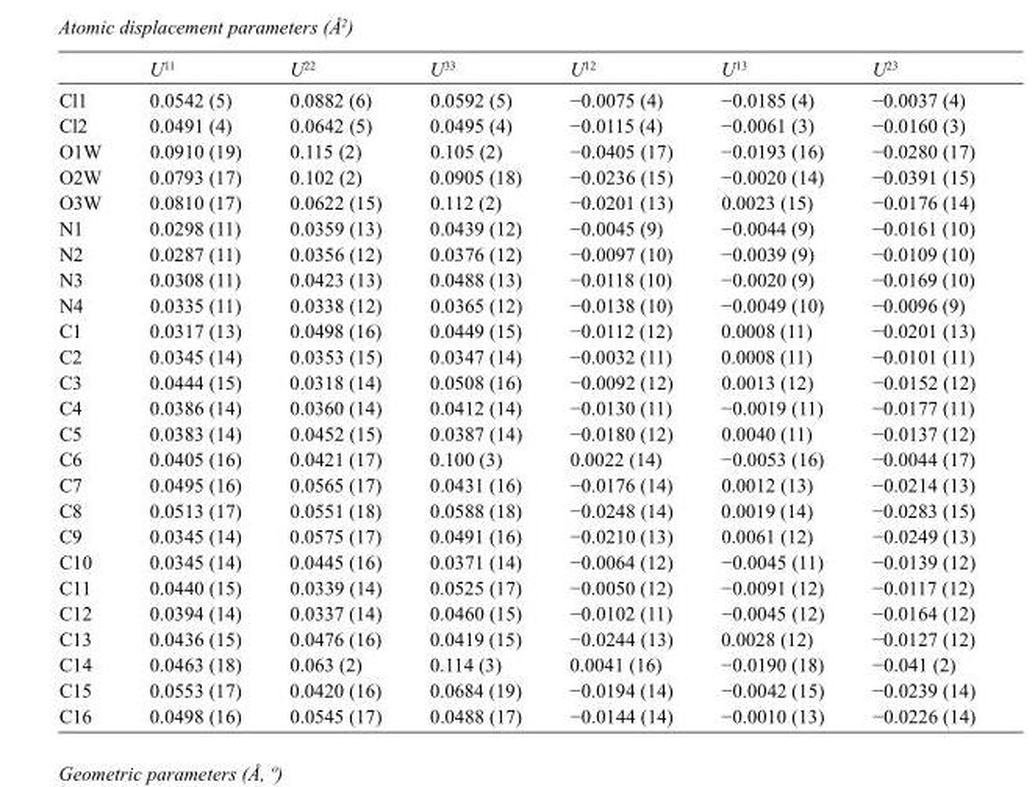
<table><thead><tr><td></td><td>U<sup>11</sup></td><td>U<sup>22</sup></td><td>U<sup>33</sup></td><td>U<sup>12</sup></td><td>U<sup>13</sup></td><td>U<sup>23</sup></td></tr></thead><tbody><tr><td>Cl1</td><td>0.0542 (5)</td><td>0.0882 (6)</td><td>0.0592 (5)</td><td>−0.0075 (4)</td><td>−0.0185 (4)</td><td>−0.0037 (4)</td></tr><tr><td>Cl2</td><td>0.0491 (4)</td><td>0.0642 (5)</td><td>0.0495 (4)</td><td>−0.0115 (4)</td><td>−0.0061 (3)</td><td>−0.0160 (3)</td></tr><tr><td>O1W</td><td>0.0910 (19)</td><td>0.115 (2)</td><td>0.105 (2)</td><td>−0.0405 (17)</td><td>−0.0193 (16)</td><td>−0.0280 (17)</td></tr><tr><td>O2W</td><td>0.0793 (17)</td><td>0.102 (2)</td><td>0.0905 (18)</td><td>−0.0236 (15)</td><td>−0.0020 (14)</td><td>−0.0391 (15)</td></tr><tr><td>O3W</td><td>0.0810 (17)</td><td>0.0622 (15)</td><td>0.112 (2)</td><td>−0.0201 (13)</td><td>0.0023 (15)</td><td>−0.0176 (14)</td></tr><tr><td>N1</td><td>0.0298 (11)</td><td>0.0359 (13)</td><td>0.0439 (12)</td><td>−0.0045 (9)</td><td>−0.0044 (9)</td><td>−0.0161 (10)</td></tr><tr><td>N2</td><td>0.0287 (11)</td><td>0.0356 (12)</td><td>0.0376 (12)</td><td>−0.0097 (10)</td><td>−0.0039 (9)</td><td>−0.0109 (10)</td></tr><tr><td>N3</td><td>0.0308 (11)</td><td>0.0423 (13)</td><td>0.0488 (13)</td><td>−0.0118 (10)</td><td>−0.0020 (9)</td><td>−0.0169 (10)</td></tr><tr><td>N4</td><td>0.0335 (11)</td><td>0.0338 (12)</td><td>0.0365 (12)</td><td>−0.0138 (10)</td><td>−0.0049 (10)</td><td>−0.0096 (9)</td></tr><tr><td>C1</td><td>0.0317 (13)</td><td>0.0498 (16)</td><td>0.0449 (15)</td><td>−0.0112 (12)</td><td>0.0008 (11)</td><td>−0.0201 (13)</td></tr><tr><td>C2</td><td>0.0345 (14)</td><td>0.0353 (15)</td><td>0.0347 (14)</td><td>−0.0032 (11)</td><td>0.0008 (11)</td><td>−0.0101 (11)</td></tr><tr><td>C3</td><td>0.0444 (15)</td><td>0.0318 (14)</td><td>0.0508 (16)</td><td>−0.0092 (12)</td><td>0.0013 (12)</td><td>−0.0152 (12)</td></tr><tr><td>C4</td><td>0.0386 (14)</td><td>0.0360 (14)</td><td>0.0412 (14)</td><td>−0.0130 (11)</td><td>−0.0019 (11)</td><td>−0.0177 (11)</td></tr><tr><td>C5</td><td>0.0383 (14)</td><td>0.0452 (15)</td><td>0.0387 (14)</td><td>−0.0180 (12)</td><td>0.0040 (11)</td><td>−0.0137 (12)</td></tr><tr><td>C6</td><td>0.0405 (16)</td><td>0.0421 (17)</td><td>0.100 (3)</td><td>0.0022 (14)</td><td>−0.0053 (16)</td><td>−0.0044 (17)</td></tr><tr><td>C7</td><td>0.0495 (16)</td><td>0.0565 (17)</td><td>0.0431 (16)</td><td>−0.0176 (14)</td><td>0.0012 (13)</td><td>−0.0214 (13)</td></tr><tr><td>C8</td><td>0.0513 (17)</td><td>0.0551 (18)</td><td>0.0588 (18)</td><td>−0.0248 (14)</td><td>0.0019 (14)</td><td>−0.0283 (15)</td></tr><tr><td>C9</td><td>0.0345 (14)</td><td>0.0575 (17)</td><td>0.0491 (16)</td><td>−0.0210 (13)</td><td>0.0061 (12)</td><td>−0.0249 (13)</td></tr><tr><td>C10</td><td>0.0345 (14)</td><td>0.0445 (16)</td><td>0.0371 (14)</td><td>−0.0064 (12)</td><td>−0.0045 (11)</td><td>−0.0139 (12)</td></tr><tr><td>C11</td><td>0.0440 (15)</td><td>0.0339 (14)</td><td>0.0525 (17)</td><td>−0.0050 (12)</td><td>−0.0091 (12)</td><td>−0.0117 (12)</td></tr><tr><td>C12</td><td>0.0394 (14)</td><td>0.0337 (14)</td><td>0.0460 (15)</td><td>−0.0102 (11)</td><td>−0.0045 (12)</td><td>−0.0164 (12)</td></tr><tr><td>C13</td><td>0.0436 (15)</td><td>0.0476 (16)</td><td>0.0419 (15)</td><td>−0.0244 (13)</td><td>0.0028 (12)</td><td>−0.0127 (12)</td></tr><tr><td>C14</td><td>0.0463 (18)</td><td>0.063 (2)</td><td>0.114 (3)</td><td>0.0041 (16)</td><td>−0.0190 (18)</td><td>−0.041 (2)</td></tr><tr><td>C15</td><td>0.0553 (17)</td><td>0.0420 (16)</td><td>0.0684 (19)</td><td>−0.0194 (14)</td><td>−0.0042 (15)</td><td>−0.0239 (14)</td></tr><tr><td>C16</td><td>0.0498 (16)</td><td>0.0545 (17)</td><td>0.0488 (17)</td><td>−0.0144 (14)</td><td>−0.0010 (13)</td><td>−0.0226 (14)</td></tr></tbody></table>